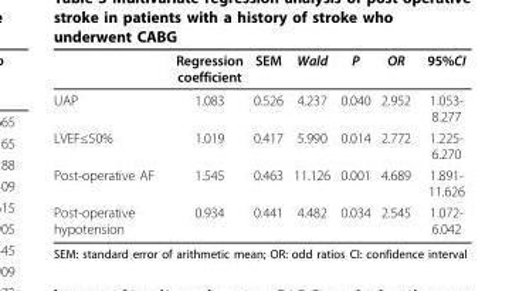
<table><thead><tr><td></td><td>Regression coefficient</td><td>SEM</td><td>Wald</td><td>P</td><td>OR</td><td>95%CI</td></tr></thead><tbody><tr><td>UAP</td><td>1.083</td><td>0.526</td><td>4.237</td><td>0.040</td><td>2.952</td><td>1.053- 8.277</td></tr><tr><td>LVEF≤50%</td><td>1.019</td><td>0.417</td><td>5.990</td><td>0.014</td><td>2.772</td><td>1.225- 6.270</td></tr><tr><td>Post-operative AF</td><td>1.545</td><td>0.463</td><td>11.126</td><td>0.001</td><td>4.689</td><td>1.891- 11.626</td></tr><tr><td>Post-operative hypotension</td><td>0.934</td><td>0.441</td><td>4.482</td><td>0.034</td><td>2.545</td><td>1.072- 6.042</td></tr></tbody></table>